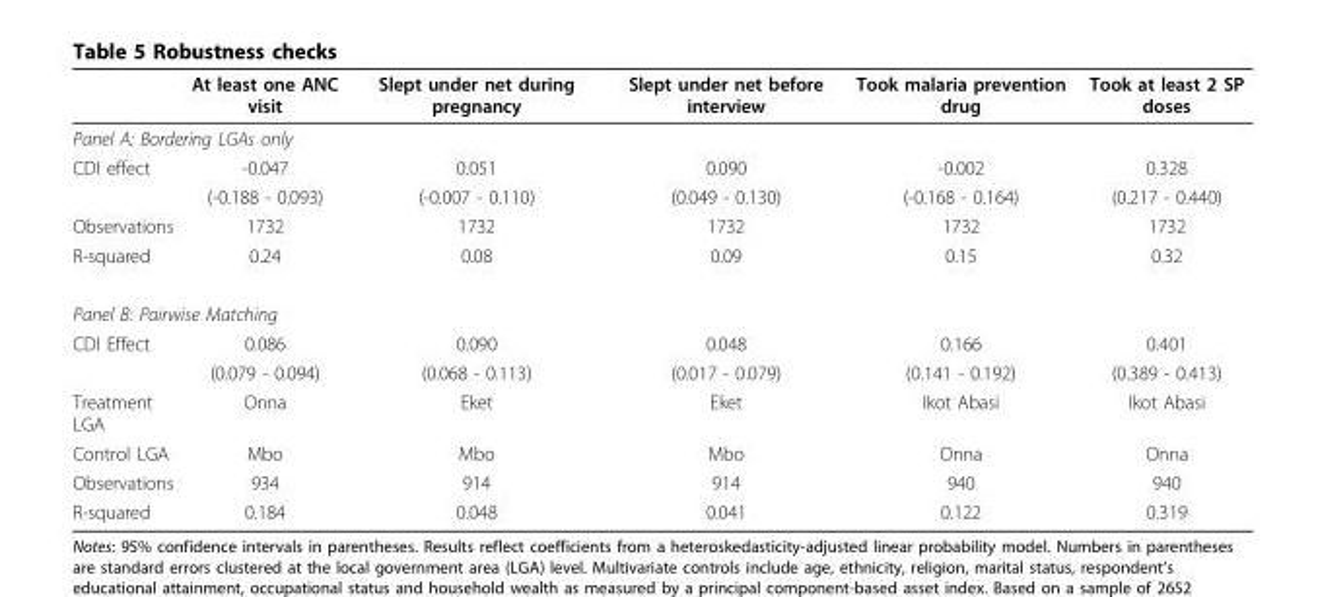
<table><thead><tr><td></td><td>At least one ANC visit</td><td>Slept under net during pregnancy</td><td>Slept under net before interview</td><td>Took malaria prevention drug</td><td>Took at least 2 SP doses</td></tr></thead><tbody><tr><td colspan="6">Panel A: Bordering LGAs only</td></tr><tr><td rowspan="2">CDI effect</td><td>-0.047</td><td>0.051</td><td>0.090</td><td>-0.002</td><td>0.328</td></tr><tr><td>(-0.188 - 0.093)</td><td>(-0.007 - 0.110)</td><td>(0.049 - 0.130)</td><td>(-0.168 - 0.164)</td><td>(0.217 - 0.440)</td></tr><tr><td>Observations</td><td>1732</td><td>1732</td><td>1732</td><td>1732</td><td>1732</td></tr><tr><td>R-squared</td><td>0.24</td><td>0.08</td><td>0.09</td><td>0.15</td><td>0.32</td></tr><tr><td colspan="6">Panel B: Pairwise Matching</td></tr><tr><td rowspan="2">CDI Effect</td><td>0.086</td><td>0.090</td><td>0.048</td><td>0.166</td><td>0.401</td></tr><tr><td>(0.079 - 0.094)</td><td>(0.068 - 0.113)</td><td>(0.017 - 0.079)</td><td>(0.141 - 0.192)</td><td>(0.389 - 0.413)</td></tr><tr><td>Treatment LGA</td><td>Onna</td><td>Eket</td><td>Eket</td><td>Ikot Abasi</td><td>Ikot Abasi</td></tr><tr><td>Control LGA</td><td>Mbo</td><td>Mbo</td><td>Mbo</td><td>Onna</td><td>Onna</td></tr><tr><td>Observations</td><td>934</td><td>914</td><td>914</td><td>940</td><td>940</td></tr><tr><td>R-squared</td><td>0.184</td><td>0.048</td><td>0.041</td><td>0.122</td><td>0.319</td></tr></tbody></table>